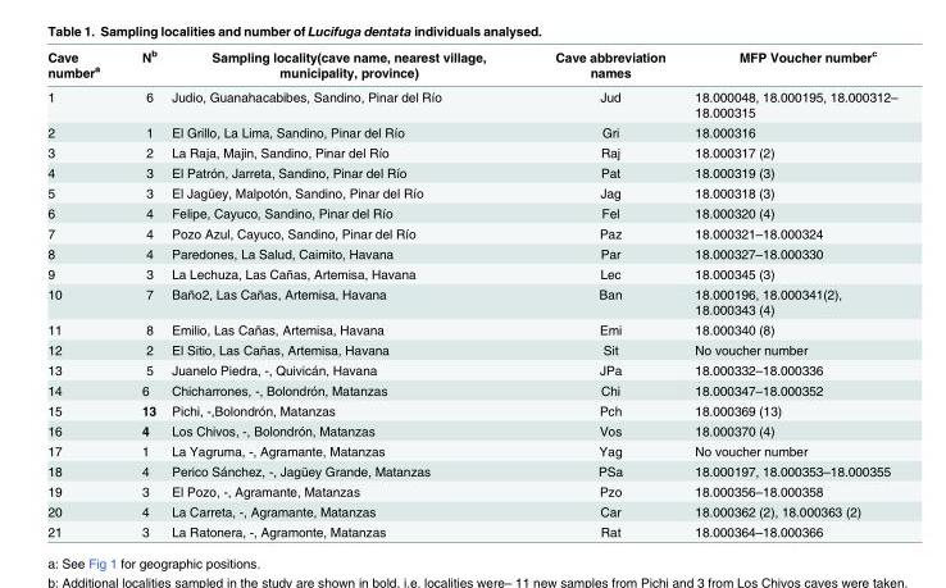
<table><thead><tr><td>Cave number<sup>a</sup></td><td>N<sup>b</sup></td><td>Sampling locality(cave name, nearest village, municipality, province)</td><td>Cave abbreviation names</td><td>MFP Voucher number<sup>c</sup></td></tr></thead><tbody><tr><td>1</td><td>6</td><td>Judio, Guanahacabibes, Sandino, Pinar del Río</td><td>Jud</td><td>18.000048, 18.000195, 18.000312– 18.000315</td></tr><tr><td>2</td><td>1</td><td>El Grillo, La Lima, Sandino, Pinar del Río</td><td>Gri</td><td>18.000316</td></tr><tr><td>3</td><td>2</td><td>La Raja, Majin, Sandino, Pinar del Río</td><td>Raj</td><td>18.000317 (2)</td></tr><tr><td>4</td><td>3</td><td>El Patrón, Jarreta, Sandino, Pinar del Río</td><td>Pat</td><td>18.000319 (3)</td></tr><tr><td>5</td><td>3</td><td>El Jagüey, Malpotón, Sandino, Pinar del Río</td><td>Jag</td><td>18.000318 (3)</td></tr><tr><td>6</td><td>4</td><td>Felipe, Cayuco, Sandino, Pinar del Río</td><td>Fel</td><td>18.000320 (4)</td></tr><tr><td>7</td><td>4</td><td>Pozo Azul, Cayuco, Sandino, Pinar del Río</td><td>Paz</td><td>18.000321–18.000324</td></tr><tr><td>8</td><td>4</td><td>Paredones, La Salud, Caimito, Havana</td><td>Par</td><td>18.000327–18.000330</td></tr><tr><td>9</td><td>3</td><td>La Lechuza, Las Cañas, Artemisa, Havana</td><td>Lec</td><td>18.000345 (3)</td></tr><tr><td>10</td><td>7</td><td>Baño2, Las Cañas, Artemisa, Havana</td><td>Ban</td><td>18.000196, 18.000341(2), 18.000343 (4)</td></tr><tr><td>11</td><td>8</td><td>Emilio, Las Cañas, Artemisa, Havana</td><td>Emi</td><td>18.000340 (8)</td></tr><tr><td>12</td><td>2</td><td>El Sitio, Las Cañas, Artemisa, Havana</td><td>Sit</td><td>No voucher number</td></tr><tr><td>13</td><td>5</td><td>Juanelo Piedra, -, Quivicán, Havana</td><td>JPa</td><td>18.000332–18.000336</td></tr><tr><td>14</td><td>6</td><td>Chicharrones, -, Bolondrón, Matanzas</td><td>Chi</td><td>18.000347–18.000352</td></tr><tr><td>15</td><td>13</td><td>Pichi, -,Bolondrón, Matanzas</td><td>Pch</td><td>18.000369 (13)</td></tr><tr><td>16</td><td>4</td><td>Los Chivos, -, Bolondrón, Matanzas</td><td>Vos</td><td>18.000370 (4)</td></tr><tr><td>17</td><td>1</td><td>La Yagruma, -, Agramante, Matanzas</td><td>Yag</td><td>No voucher number</td></tr><tr><td>18</td><td>4</td><td>Perico Sánchez, -, Jagüey Grande, Matanzas</td><td>PSa</td><td>18.000197, 18.000353–18.000355</td></tr><tr><td>19</td><td>3</td><td>El Pozo, -, Agramante, Matanzas</td><td>Pzo</td><td>18.000356–18.000358</td></tr><tr><td>20</td><td>4</td><td>La Carreta, -, Agramante, Matanzas</td><td>Car</td><td>18.000362 (2), 18.000363 (2)</td></tr><tr><td>21</td><td>3</td><td>La Ratonera, -, Agramonte, Matanzas</td><td>Rat</td><td>18.000364–18.000366</td></tr></tbody></table>